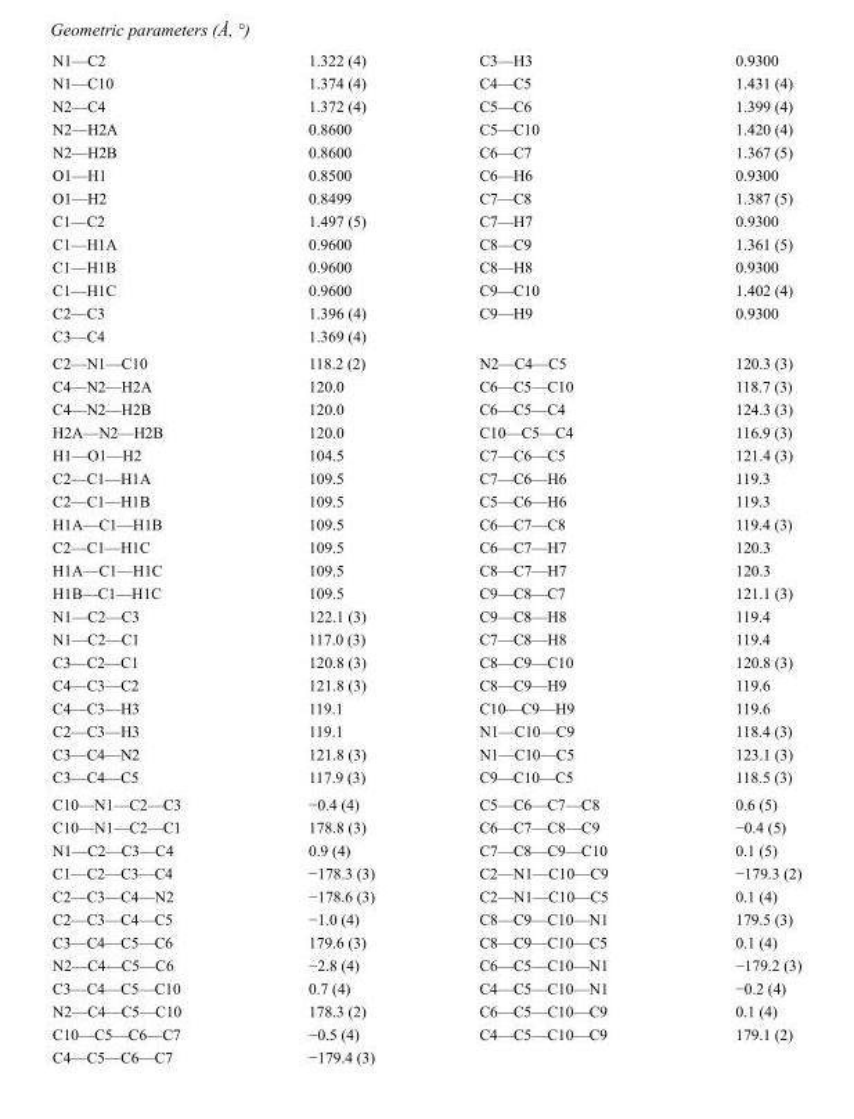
<table><tbody><tr><td>N1—C2</td><td>1.322 (4)</td><td>C3—H3</td><td>0.9300</td></tr><tr><td>N1—C10</td><td>1.374 (4)</td><td>C4—C5</td><td>1.431 (4)</td></tr><tr><td>N2—C4</td><td>1.372 (4)</td><td>C5—C6</td><td>1.399 (4)</td></tr><tr><td>N2—H2A</td><td>0.8600</td><td>C5—C10</td><td>1.420 (4)</td></tr><tr><td>N2—H2B</td><td>0.8600</td><td>C6—C7</td><td>1.367 (5)</td></tr><tr><td>O1—H1</td><td>0.8500</td><td>C6—H6</td><td>0.9300</td></tr><tr><td>O1—H2</td><td>0.8499</td><td>C7—C8</td><td>1.387 (5)</td></tr><tr><td>C1—C2</td><td>1.497 (5)</td><td>C7—H7</td><td>0.9300</td></tr><tr><td>C1—H1A</td><td>0.9600</td><td>C8—C9</td><td>1.361 (5)</td></tr><tr><td>C1—H1B</td><td>0.9600</td><td>C8—H8</td><td>0.9300</td></tr><tr><td>C1—H1C</td><td>0.9600</td><td>C9—C10</td><td>1.402 (4)</td></tr><tr><td>C2—C3</td><td>1.396 (4)</td><td>C9—H9</td><td>0.9300</td></tr><tr><td>C3—C4</td><td>1.369 (4)</td><td></td><td></td></tr><tr><td>C2—N1—C10</td><td>118.2 (2)</td><td>N2—C4—C5</td><td>120.3 (3)</td></tr><tr><td>C4—N2—H2A</td><td>120.0</td><td>C6—C5—C10</td><td>118.7 (3)</td></tr><tr><td>C4—N2—H2B</td><td>120.0</td><td>C6—C5—C4</td><td>124.3 (3)</td></tr><tr><td>H2A—N2—H2B</td><td>120.0</td><td>C10—C5—C4</td><td>116.9 (3)</td></tr><tr><td>H1—O1—H2</td><td>104.5</td><td>C7—C6—C5</td><td>121.4 (3)</td></tr><tr><td>C2—C1—H1A</td><td>109.5</td><td>C7—C6—H6</td><td>119.3</td></tr><tr><td>C2—C1—H1B</td><td>109.5</td><td>C5—C6—H6</td><td>119.3</td></tr><tr><td>H1A—C1—H1B</td><td>109.5</td><td>C6—C7—C8</td><td>119.4 (3)</td></tr><tr><td>C2—C1—H1C</td><td>109.5</td><td>C6—C7—H7</td><td>120.3</td></tr><tr><td>H1A—C1—H1C</td><td>109.5</td><td>C8—C7—H7</td><td>120.3</td></tr><tr><td>H1B—C1—H1C</td><td>109.5</td><td>C9—C8—C7</td><td>121.1 (3)</td></tr><tr><td>N1—C2—C3</td><td>122.1 (3)</td><td>C9—C8—H8</td><td>119.4</td></tr><tr><td>N1—C2—C1</td><td>117.0 (3)</td><td>C7—C8—H8</td><td>119.4</td></tr><tr><td>C3—C2—C1</td><td>120.8 (3)</td><td>C8—C9—C10</td><td>120.8 (3)</td></tr><tr><td>C4—C3—C2</td><td>121.8 (3)</td><td>C8—C9—H9</td><td>119.6</td></tr><tr><td>C4—C3—H3</td><td>119.1</td><td>C10—C9—H9</td><td>119.6</td></tr><tr><td>C2—C3—H3</td><td>119.1</td><td>N1—C10—C9</td><td>118.4 (3)</td></tr><tr><td>C3—C4—N2</td><td>121.8 (3)</td><td>N1—C10—C5</td><td>123.1 (3)</td></tr><tr><td>C3—C4—C5</td><td>117.9 (3)</td><td>C9—C10—C5</td><td>118.5 (3)</td></tr><tr><td>C10—N1—C2—C3</td><td>−0.4 (4)</td><td>C5—C6—C7—C8</td><td>0.6 (5)</td></tr><tr><td>C10—N1—C2—C1</td><td>178.8 (3)</td><td>C6—C7—C8—C9</td><td>−0.4 (5)</td></tr><tr><td>N1—C2—C3—C4</td><td>0.9 (4)</td><td>C7—C8—C9—C10</td><td>0.1 (5)</td></tr><tr><td>C1—C2—C3—C4</td><td>−178.3 (3)</td><td>C2—N1—C10—C9</td><td>−179.3 (2)</td></tr><tr><td>C2—C3—C4—N2</td><td>−178.6 (3)</td><td>C2—N1—C10—C5</td><td>0.1 (4)</td></tr><tr><td>C2—C3—C4—C5</td><td>−1.0 (4)</td><td>C8—C9—C10—N1</td><td>179.5 (3)</td></tr><tr><td>C3—C4—C5—C6</td><td>179.6 (3)</td><td>C8—C9—C10—C5</td><td>0.1 (4)</td></tr><tr><td>N2—C4—C5—C6</td><td>−2.8 (4)</td><td>C6—C5—C10—N1</td><td>−179.2 (3)</td></tr><tr><td>C3—C4—C5—C10</td><td>0.7 (4)</td><td>C4—C5—C10—N1</td><td>−0.2 (4)</td></tr><tr><td>N2—C4—C5—C10</td><td>178.3 (2)</td><td>C6—C5—C10—C9</td><td>0.1 (4)</td></tr><tr><td>C10—C5—C6—C7</td><td>−0.5 (4)</td><td>C4—C5—C10—C9</td><td>179.1 (2)</td></tr><tr><td>C4—C5—C6—C7</td><td>−179.4 (3)</td><td></td><td></td></tr></tbody></table>